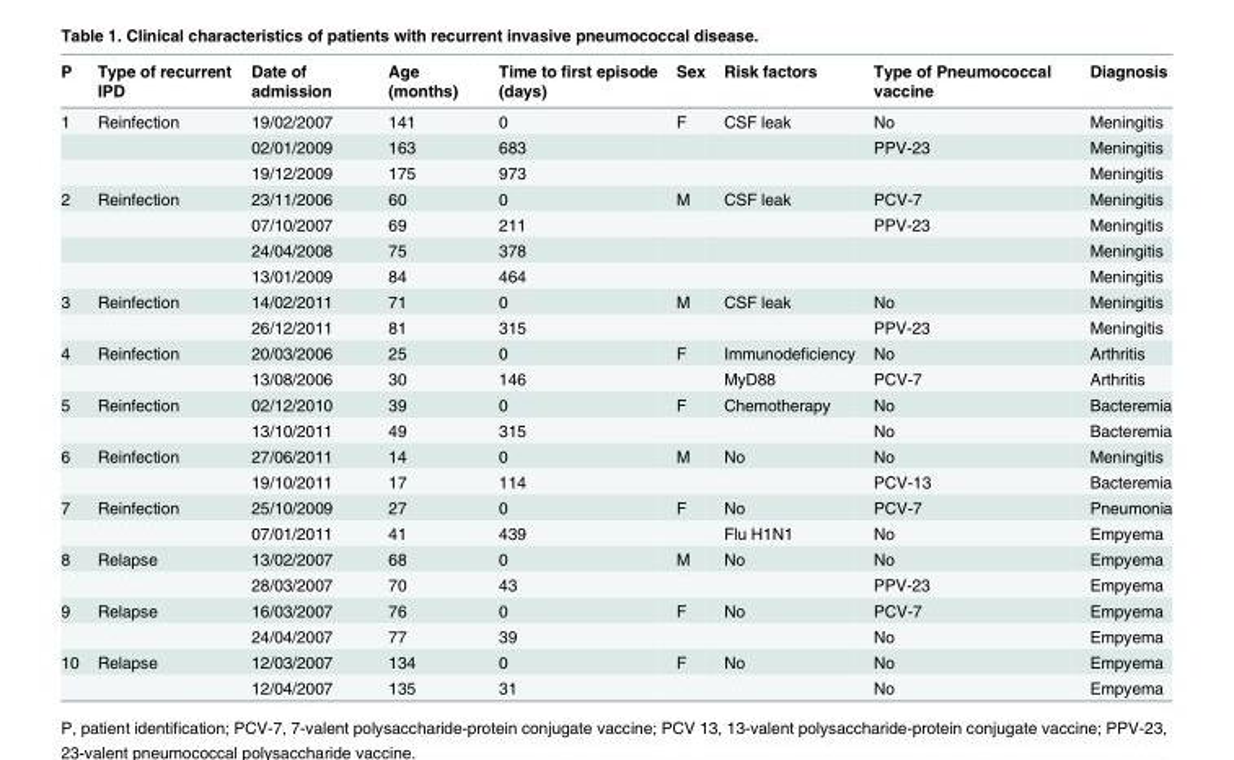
<table><thead><tr><td>P</td><td>Type of recurrent IPD</td><td>Date of admission</td><td>Age (months)</td><td>Time to first episode (days)</td><td>Sex</td><td>Risk factors</td><td>Type of Pneumococcal vaccine</td><td>Diagnosis</td></tr></thead><tbody><tr><td rowspan="3">1</td><td>Reinfection</td><td>19/02/2007</td><td>141</td><td>0</td><td>F</td><td>CSF leak</td><td>No</td><td>Meningitis</td></tr><tr><td></td><td>02/01/2009</td><td>163</td><td>683</td><td></td><td></td><td>PPV-23</td><td>Meningitis</td></tr><tr><td></td><td>19/12/2009</td><td>175</td><td>973</td><td></td><td></td><td></td><td>Meningitis</td></tr><tr><td rowspan="4">2</td><td>Reinfection</td><td>23/11/2006</td><td>60</td><td>0</td><td>M</td><td>CSF leak</td><td>PCV-7</td><td>Meningitis</td></tr><tr><td></td><td>07/10/2007</td><td>69</td><td>211</td><td></td><td></td><td>PPV-23</td><td>Meningitis</td></tr><tr><td></td><td>24/04/2008</td><td>75</td><td>378</td><td></td><td></td><td></td><td>Meningitis</td></tr><tr><td></td><td>13/01/2009</td><td>84</td><td>464</td><td></td><td></td><td></td><td>Meningitis</td></tr><tr><td rowspan="2">3</td><td>Reinfection</td><td>14/02/2011</td><td>71</td><td>0</td><td>M</td><td>CSF leak</td><td>No</td><td>Meningitis</td></tr><tr><td></td><td>26/12/2011</td><td>81</td><td>315</td><td></td><td></td><td>PPV-23</td><td>Meningitis</td></tr><tr><td rowspan="2">4</td><td>Reinfection</td><td>20/03/2006</td><td>25</td><td>0</td><td>F</td><td>Immunodeficiency</td><td>No</td><td>Arthritis</td></tr><tr><td></td><td>13/08/2006</td><td>30</td><td>146</td><td></td><td>MyD88</td><td>PCV-7</td><td>Arthritis</td></tr><tr><td rowspan="2">5</td><td>Reinfection</td><td>02/12/2010</td><td>39</td><td>0</td><td>F</td><td>Chemotherapy</td><td>No</td><td>Bacteremia</td></tr><tr><td></td><td>13/10/2011</td><td>49</td><td>315</td><td></td><td></td><td>No</td><td>Bacteremia</td></tr><tr><td rowspan="2">6</td><td>Reinfection</td><td>27/06/2011</td><td>14</td><td>0</td><td>M</td><td>No</td><td>No</td><td>Meningitis</td></tr><tr><td></td><td>19/10/2011</td><td>17</td><td>114</td><td></td><td></td><td>PCV-13</td><td>Bacteremia</td></tr><tr><td rowspan="2">7</td><td>Reinfection</td><td>25/10/2009</td><td>27</td><td>0</td><td>F</td><td>No</td><td>PCV-7</td><td>Pneumonia</td></tr><tr><td></td><td>07/01/2011</td><td>41</td><td>439</td><td></td><td>Flu H1N1</td><td>No</td><td>Empyema</td></tr><tr><td rowspan="2">8</td><td>Relapse</td><td>13/02/2007</td><td>68</td><td>0</td><td>M</td><td>No</td><td>No</td><td>Empyema</td></tr><tr><td></td><td>28/03/2007</td><td>70</td><td>43</td><td></td><td></td><td>PPV-23</td><td>Empyema</td></tr><tr><td rowspan="2">9</td><td>Relapse</td><td>16/03/2007</td><td>76</td><td>0</td><td>F</td><td>No</td><td>PCV-7</td><td>Empyema</td></tr><tr><td></td><td>24/04/2007</td><td>77</td><td>39</td><td></td><td></td><td>No</td><td>Empyema</td></tr><tr><td rowspan="2">10</td><td>Relapse</td><td>12/03/2007</td><td>134</td><td>0</td><td>F</td><td>No</td><td>No</td><td>Empyema</td></tr><tr><td></td><td>12/04/2007</td><td>135</td><td>31</td><td></td><td></td><td>No</td><td>Empyema</td></tr></tbody></table>